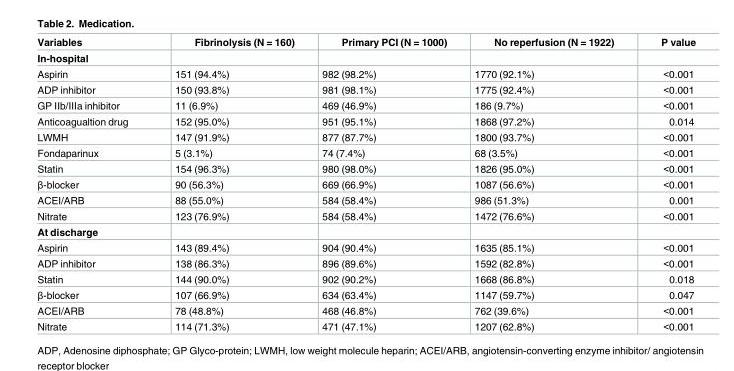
<table><thead><tr><td>Variables</td><td>Fibrinolysis (N = 160)</td><td>Primary PCI (N = 1000)</td><td>No reperfusion (N = 1922)</td><td>P value</td></tr></thead><tbody><tr><td colspan="5">In-hospital</td></tr><tr><td>Aspirin</td><td>151 (94.4%)</td><td>982 (98.2%)</td><td>1770 (92.1%)</td><td>&lt;0.001</td></tr><tr><td>ADP inhibitor</td><td>150 (93.8%)</td><td>981 (98.1%)</td><td>1775 (92.4%)</td><td>&lt;0.001</td></tr><tr><td>GP IIb/IIIa inhibitor</td><td>11 (6.9%)</td><td>469 (46.9%)</td><td>186 (9.7%)</td><td>&lt;0.001</td></tr><tr><td>Anticoagualtion drug</td><td>152 (95.0%)</td><td>951 (95.1%)</td><td>1868 (97.2%)</td><td>0.014</td></tr><tr><td>LWMH</td><td>147 (91.9%)</td><td>877 (87.7%)</td><td>1800 (93.7%)</td><td>&lt;0.001</td></tr><tr><td>Fondaparinux</td><td>5 (3.1%)</td><td>74 (7.4%)</td><td>68 (3.5%)</td><td>&lt;0.001</td></tr><tr><td>Statin</td><td>154 (96.3%)</td><td>980 (98.0%)</td><td>1826 (95.0%)</td><td>&lt;0.001</td></tr><tr><td>β-blocker</td><td>90 (56.3%)</td><td>669 (66.9%)</td><td>1087 (56.6%)</td><td>&lt;0.001</td></tr><tr><td>ACEI/ARB</td><td>88 (55.0%)</td><td>584 (58.4%)</td><td>986 (51.3%)</td><td>0.001</td></tr><tr><td>Nitrate</td><td>123 (76.9%)</td><td>584 (58.4%)</td><td>1472 (76.6%)</td><td>&lt;0.001</td></tr><tr><td colspan="5">At discharge</td></tr><tr><td>Aspirin</td><td>143 (89.4%)</td><td>904 (90.4%)</td><td>1635 (85.1%)</td><td>&lt;0.001</td></tr><tr><td>ADP inhibitor</td><td>138 (86.3%)</td><td>896 (89.6%)</td><td>1592 (82.8%)</td><td>&lt;0.001</td></tr><tr><td>Statin</td><td>144 (90.0%)</td><td>902 (90.2%)</td><td>1668 (86.8%)</td><td>0.018</td></tr><tr><td>β-blocker</td><td>107 (66.9%)</td><td>634 (63.4%)</td><td>1147 (59.7%)</td><td>0.047</td></tr><tr><td>ACEI/ARB</td><td>78 (48.8%)</td><td>468 (46.8%)</td><td>762 (39.6%)</td><td>&lt;0.001</td></tr><tr><td>Nitrate</td><td>114 (71.3%)</td><td>471 (47.1%)</td><td>1207 (62.8%)</td><td>&lt;0.001</td></tr></tbody></table>